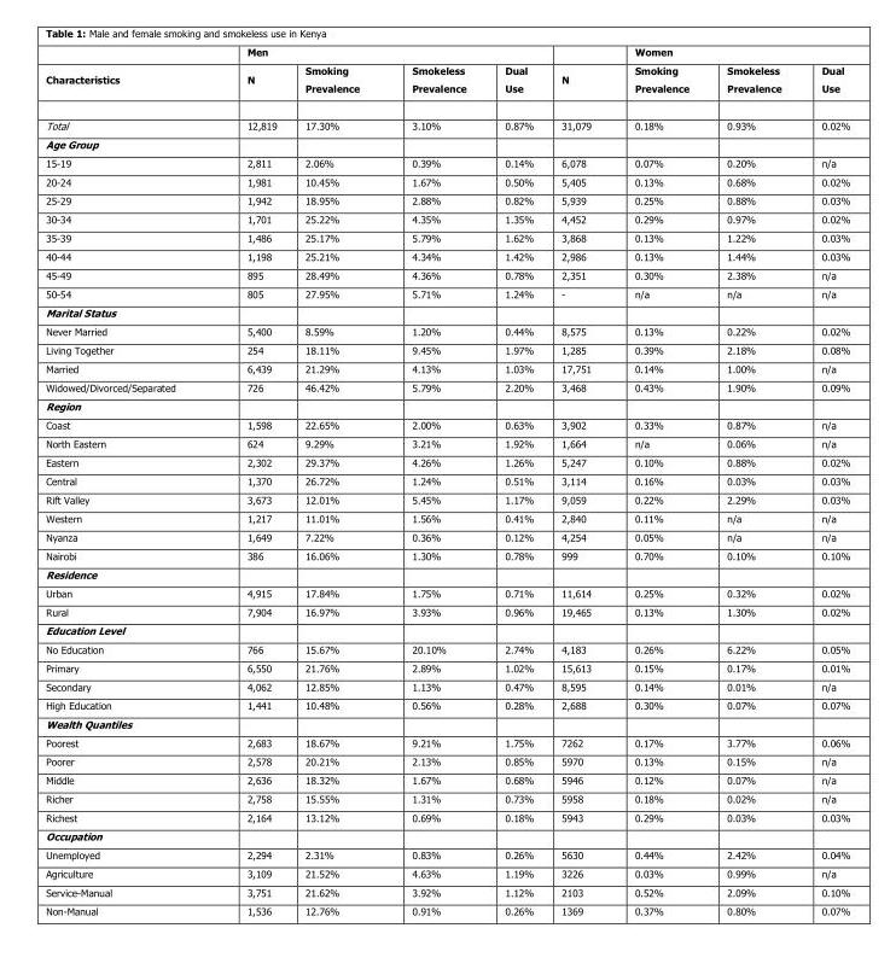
<table><thead><tr><td rowspan="2">Characteristics</td><td colspan="4">Men</td><td rowspan="2">N</td><td colspan="3">Women</td></tr><tr><td>N</td><td>Smoking Prevalence</td><td>Smokeless Prevalence</td><td>Dual Use</td><td>Smoking Prevalence</td><td>Smokeless Prevalence</td><td>Dual Use</td></tr></thead><tbody><tr><td>Total</td><td>12,819</td><td>17.30%</td><td>3.10%</td><td>0.87%</td><td>31,079</td><td>0.18%</td><td>0.93%</td><td>0.02%</td></tr><tr><td colspan="9">Age Group</td></tr><tr><td>15-19</td><td>2,811</td><td>2.06%</td><td>0.39%</td><td>0.14%</td><td>6,078</td><td>0.07%</td><td>0.20%</td><td>n/a</td></tr><tr><td>20-24</td><td>1,981</td><td>10.45%</td><td>1.67%</td><td>0.50%</td><td>5,405</td><td>0.13%</td><td>0.68%</td><td>0.02%</td></tr><tr><td>25-29</td><td>1,942</td><td>18.95%</td><td>2.88%</td><td>0.82%</td><td>5,939</td><td>0.25%</td><td>0.88%</td><td>0.03%</td></tr><tr><td>30-34</td><td>1,701</td><td>25.22%</td><td>4.35%</td><td>1.35%</td><td>4,452</td><td>0.29%</td><td>0.97%</td><td>0.02%</td></tr><tr><td>35-39</td><td>1,486</td><td>25.17%</td><td>5.79%</td><td>1.62%</td><td>3,868</td><td>0.13%</td><td>1.22%</td><td>0.03%</td></tr><tr><td>40-44</td><td>1,198</td><td>25.21%</td><td>4.34%</td><td>1.42%</td><td>2,986</td><td>0.13%</td><td>1.44%</td><td>0.03%</td></tr><tr><td>45-49</td><td>895</td><td>28.49%</td><td>4.36%</td><td>0.78%</td><td>2,351</td><td>0.30%</td><td>2.38%</td><td>n/a</td></tr><tr><td>50-54</td><td>805</td><td>27.95%</td><td>5.71%</td><td>1.24%</td><td>-</td><td>n/a</td><td>n/a</td><td>n/a</td></tr><tr><td colspan="9">Marital Status</td></tr><tr><td>Never Married</td><td>5,400</td><td>8.59%</td><td>1.20%</td><td>0.44%</td><td>8,575</td><td>0.13%</td><td>0.22%</td><td>0.02%</td></tr><tr><td>Living Together</td><td>254</td><td>18.11%</td><td>9.45%</td><td>1.97%</td><td>1,285</td><td>0.39%</td><td>2.18%</td><td>0.08%</td></tr><tr><td>Married</td><td>6,439</td><td>21.29%</td><td>4.13%</td><td>1.03%</td><td>17,751</td><td>0.14%</td><td>1.00%</td><td>n/a</td></tr><tr><td>Widowed/Divorced/Separated</td><td>726</td><td>46.42%</td><td>5.79%</td><td>2.20%</td><td>3,468</td><td>0.43%</td><td>1.90%</td><td>0.09%</td></tr><tr><td colspan="9">Region</td></tr><tr><td>Coast</td><td>1,598</td><td>22.65%</td><td>2.00%</td><td>0.63%</td><td>3,902</td><td>0.33%</td><td>0.87%</td><td>n/a</td></tr><tr><td>North Eastern</td><td>624</td><td>9.29%</td><td>3.21%</td><td>1.92%</td><td>1,664</td><td>n/a</td><td>0.06%</td><td>n/a</td></tr><tr><td>Eastern</td><td>2,302</td><td>29.37%</td><td>4.26%</td><td>1.26%</td><td>5,247</td><td>0.10%</td><td>0.88%</td><td>0.02%</td></tr><tr><td>Central</td><td>1,370</td><td>26.72%</td><td>1.24%</td><td>0.51%</td><td>3,114</td><td>0.16%</td><td>0.03%</td><td>0.03%</td></tr><tr><td>Rift Valley</td><td>3,673</td><td>12.01%</td><td>5.45%</td><td>1.17%</td><td>9,059</td><td>0.22%</td><td>2.29%</td><td>0.03%</td></tr><tr><td>Western</td><td>1,217</td><td>11.01%</td><td>1.56%</td><td>0.41%</td><td>2,840</td><td>0.11%</td><td>n/a</td><td>n/a</td></tr><tr><td>Nyanza</td><td>1,649</td><td>7.22%</td><td>0.36%</td><td>0.12%</td><td>4,254</td><td>0.05%</td><td>n/a</td><td>n/a</td></tr><tr><td>Nairobi</td><td>386</td><td>16.06%</td><td>1.30%</td><td>0.78%</td><td>999</td><td>0.70%</td><td>0.10%</td><td>0.10%</td></tr><tr><td colspan="9">Residence</td></tr><tr><td>Urban</td><td>4,915</td><td>17.84%</td><td>1.75%</td><td>0.71%</td><td>11,614</td><td>0.25%</td><td>0.32%</td><td>0.02%</td></tr><tr><td>Rural</td><td>7,904</td><td>16.97%</td><td>3.93%</td><td>0.96%</td><td>19,465</td><td>0.13%</td><td>1.30%</td><td>0.02%</td></tr><tr><td colspan="9">Education Level</td></tr><tr><td>No Education</td><td>766</td><td>15.67%</td><td>20.10%</td><td>2.74%</td><td>4,183</td><td>0.26%</td><td>6.22%</td><td>0.05%</td></tr><tr><td>Primary</td><td>6,550</td><td>21.76%</td><td>2.89%</td><td>1.02%</td><td>15,613</td><td>0.15%</td><td>0.17%</td><td>0.01%</td></tr><tr><td>Secondary</td><td>4,062</td><td>12.85%</td><td>1.13%</td><td>0.47%</td><td>8,595</td><td>0.14%</td><td>0.01%</td><td>n/a</td></tr><tr><td>High Education</td><td>1,441</td><td>10.48%</td><td>0.56%</td><td>0.28%</td><td>2,688</td><td>0.30%</td><td>0.07%</td><td>0.07%</td></tr><tr><td colspan="9">Wealth Quantiles</td></tr><tr><td>Poorest</td><td>2,683</td><td>18.67%</td><td>9.21%</td><td>1.75%</td><td>7262</td><td>0.17%</td><td>3.77%</td><td>0.06%</td></tr><tr><td>Poorer</td><td>2,578</td><td>20.21%</td><td>2.13%</td><td>0.85%</td><td>5970</td><td>0.13%</td><td>0.15%</td><td>n/a</td></tr><tr><td>Middle</td><td>2,636</td><td>18.32%</td><td>1.67%</td><td>0.68%</td><td>5946</td><td>0.12%</td><td>0.07%</td><td>n/a</td></tr><tr><td>Richer</td><td>2,758</td><td>15.55%</td><td>1.31%</td><td>0.73%</td><td>5958</td><td>0.18%</td><td>0.02%</td><td>n/a</td></tr><tr><td>Richest</td><td>2,164</td><td>13.12%</td><td>0.69%</td><td>0.18%</td><td>5943</td><td>0.29%</td><td>0.03%</td><td>0.03%</td></tr><tr><td colspan="9">Occupation</td></tr><tr><td>Unemployed</td><td>2,294</td><td>2.31%</td><td>0.83%</td><td>0.26%</td><td>5630</td><td>0.44%</td><td>2.42%</td><td>0.04%</td></tr><tr><td>Agriculture</td><td>3,109</td><td>21.52%</td><td>4.63%</td><td>1.19%</td><td>3226</td><td>0.03%</td><td>0.99%</td><td>n/a</td></tr><tr><td>Service-Manual</td><td>3,751</td><td>21.62%</td><td>3.92%</td><td>1.12%</td><td>2103</td><td>0.52%</td><td>2.09%</td><td>0.10%</td></tr><tr><td>Non-Manual</td><td>1,536</td><td>12.76%</td><td>0.91%</td><td>0.26%</td><td>1369</td><td>0.37%</td><td>0.80%</td><td>0.07%</td></tr></tbody></table>